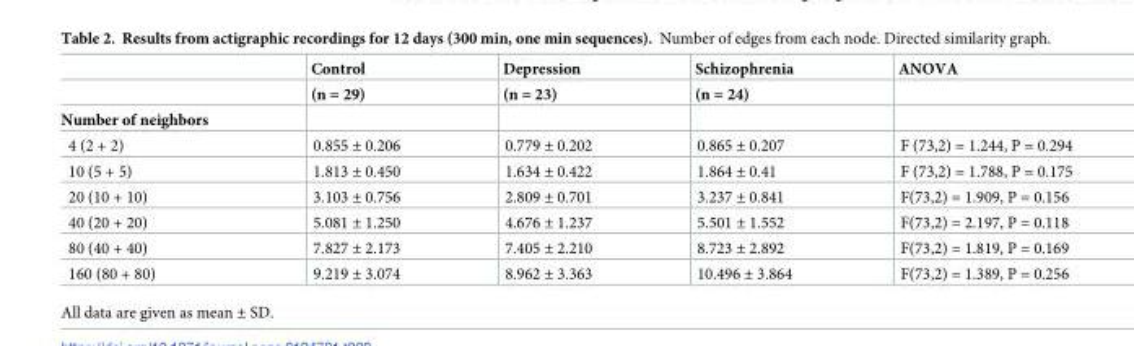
<table><thead><tr><td rowspan="2"></td><td rowspan="2">Control (n = 29)</td><td rowspan="2">Depression (n = 23)</td><td rowspan="2">Schizophrenia (n = 24)</td><td rowspan="2">ANOVA</td></tr><tr></tr></thead><tbody><tr><td colspan="5">Number of neighbors</td></tr><tr><td>4 (2 + 2)</td><td>0.855 ± 0.206</td><td>0.779 ± 0.202</td><td>0.865 ± 0.207</td><td>F (73,2) = 1.244, P = 0.294</td></tr><tr><td>10 (5 + 5)</td><td>1.813 ± 0.450</td><td>1.634 ± 0.422</td><td>1.864 ± 0.41</td><td>F (73,2) = 1.788, P = 0.175</td></tr><tr><td>20 (10 + 10)</td><td>3.103 ± 0.756</td><td>2.809 ± 0.701</td><td>3.237 ± 0.841</td><td>F(73,2) = 1.909, P = 0.156</td></tr><tr><td>40 (20 + 20)</td><td>5.081 ± 1.250</td><td>4.676 ± 1.237</td><td>5.501 ± 1.552</td><td>F(73,2) = 2.197, P = 0.118</td></tr><tr><td>80 (40 + 40)</td><td>7.827 ± 2.173</td><td>7.405 ± 2.210</td><td>8.723 ± 2.892</td><td>F(73,2) = 1.819, P = 0.169</td></tr><tr><td>160 (80 + 80)</td><td>9.219 ± 3.074</td><td>8.962 ± 3.363</td><td>10.496 ± 3.864</td><td>F(73,2) = 1.389, P = 0.256</td></tr></tbody></table>